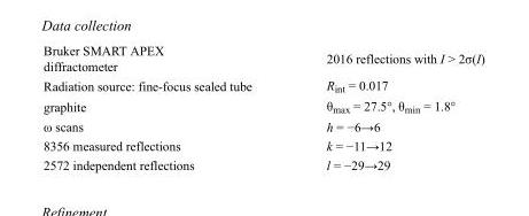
<table><tbody><tr><td>Bruker SMART APEX diffractometer</td><td>2016 reflections with I &gt; 2σ(I)</td></tr><tr><td>Radiation source: fine-focus sealed tube</td><td>R<sub>int</sub> = 0.017</td></tr><tr><td>graphite</td><td>θ<sub>max</sub> = 27.5°, θ<sub>min</sub> = 1.8°</td></tr><tr><td>ω scans</td><td>h = −6→6</td></tr><tr><td>8356 measured reflections</td><td>k = −11→12</td></tr><tr><td>2572 independent reflections</td><td>l = −29→29</td></tr></tbody></table>